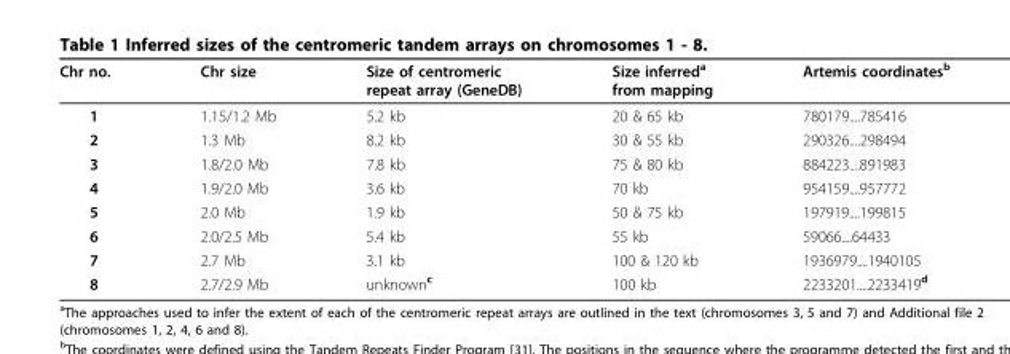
<table><thead><tr><td>Chr no.</td><td>Chr size</td><td>Size of centromeric repeat array (GeneDB)</td><td>Size inferred<sup>a</sup> from mapping</td><td>Artemis coordinates<sup>b</sup></td></tr></thead><tbody><tr><td>1</td><td>1.15/1.2 Mb</td><td>5.2 kb</td><td>20 &amp; 65 kb</td><td>780179....785416</td></tr><tr><td>2</td><td>1.3 Mb</td><td>8.2 kb</td><td>30 &amp; 55 kb</td><td>290326....298494</td></tr><tr><td>3</td><td>1.8/2.0 Mb</td><td>7.8 kb</td><td>75 &amp; 80 kb</td><td>884223....891983</td></tr><tr><td>4</td><td>1.9/2.0 Mb</td><td>3.6 kb</td><td>70 kb</td><td>954159....957772</td></tr><tr><td>5</td><td>2.0 Mb</td><td>1.9 kb</td><td>50 &amp; 75 kb</td><td>197919....199815</td></tr><tr><td>6</td><td>2.0/2.5 Mb</td><td>5.4 kb</td><td>55 kb</td><td>59066....64433</td></tr><tr><td>7</td><td>2.7 Mb</td><td>3.1 kb</td><td>100 &amp; 120 kb</td><td>1936979....1940105</td></tr><tr><td>8</td><td>2.7/2.9 Mb</td><td>unknown<sup>c</sup></td><td>100 kb</td><td>2233201....2233419<sup>d</sup></td></tr></tbody></table>